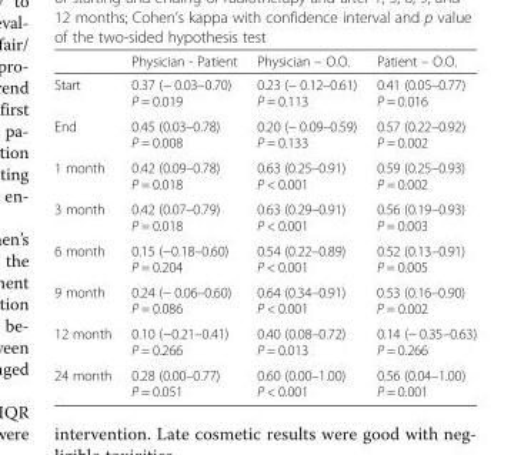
<table><thead><tr><td></td><td>Physician - Patient</td><td>Physician – O.O.</td><td>Patient – O.O.</td></tr></thead><tbody><tr><td>Start</td><td>0.37 (− 0.03–0.70) P = 0.019</td><td>0.23 (− 0.12–0.61) P = 0.113</td><td>0.41 (0.05–0.77) P = 0.016</td></tr><tr><td>End</td><td>0.45 (0.03–0.78) P = 0.008</td><td>0.20 (− 0.09–0.59) P = 0.133</td><td>0.57 (0.22–0.92) P = 0.002</td></tr><tr><td>1 month</td><td>0.42 (0.09–0.78) P = 0.018</td><td>0.63 (0.25–0.91) P &lt; 0.001</td><td>0.59 (0.25–0.93) P = 0.002</td></tr><tr><td>3 month</td><td>0.42 (0.07–0.79) P = 0.018</td><td>0.63 (0.29–0.91) P &lt; 0.001</td><td>0.56 (0.19–0.93) P = 0.003</td></tr><tr><td>6 month</td><td>0.15 (−0.18–0.60) P = 0.204</td><td>0.54 (0.22–0.89) P &lt; 0.001</td><td>0.52 (0.13–0.91) P = 0.005</td></tr><tr><td>9 month</td><td>0.24 (− 0.06–0.60) P = 0.086</td><td>0.64 (0.34–0.91) P &lt; 0.001</td><td>0.53 (0.16–0.90) P = 0.002</td></tr><tr><td>12 month</td><td>0.10 (−0.21–0.41) P = 0.266</td><td>0.40 (0.08–0.72) P = 0.013</td><td>0.14 (− 0.35–0.63) P = 0.266</td></tr><tr><td>24 month</td><td>0.28 (0.00–0.77) P = 0.051</td><td>0.60 (0.00–1.00) P &lt; 0.001</td><td>0.56 (0.04–1.00) P = 0.001</td></tr></tbody></table>